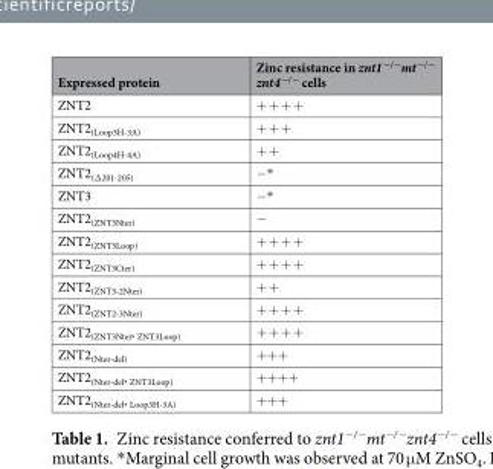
<table><thead><tr><td>Expressed protein</td><td>Zinc resistance in znt1<sup>−/−</sup>mt<sup>−/−</sup> znt4<sup>−/−</sup> cells</td></tr></thead><tbody><tr><td>ZNT2</td><td>+ + + +</td></tr><tr><td>ZNT2<sub>(Loop3H-3A)</sub></td><td>+ + +</td></tr><tr><td>ZNT2<sub>(Loop4H-4A)</sub></td><td>+ +</td></tr><tr><td>ZNT2<sub>(Δ201-205)</sub></td><td>−*</td></tr><tr><td>ZNT3</td><td>−*</td></tr><tr><td>ZNT2<sub>(ZNT3Nter)</sub></td><td>−</td></tr><tr><td>ZNT2<sub>(ZNT3Loop)</sub></td><td>+ + + +</td></tr><tr><td>ZNT2<sub>(ZNT3Cter)</sub></td><td>+ + + +</td></tr><tr><td>ZNT2<sub>(ZNT3-2Nter)</sub></td><td>+ +</td></tr><tr><td>ZNT2<sub>(ZNT2-3Nter)</sub></td><td>+ + + +</td></tr><tr><td>ZNT2<sub>(ZNT3Nter</sub>, <sub>ZNT3Loop)</sub></td><td>+ + + +</td></tr><tr><td>ZNT2<sub>(Nter-del)</sub></td><td>+++</td></tr><tr><td>ZNT2<sub>(Nter-del</sub>, <sub>ZNT3Loop)</sub></td><td>++++</td></tr><tr><td>ZNT2<sub>(Nter-del</sub>, <sub>Loop3H-3A)</sub></td><td>+++</td></tr></tbody></table>